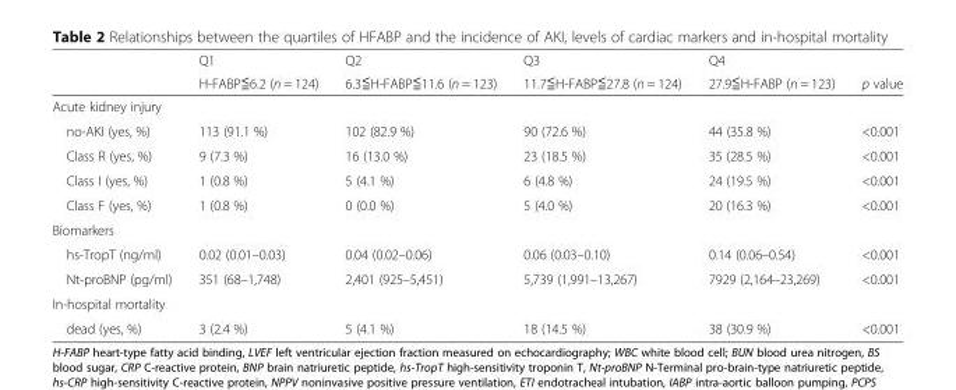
<table><thead><tr><td rowspan="2"></td><td rowspan="2">Q1 H-FABP≦6.2 (n = 124)</td><td rowspan="2">Q2 6.3≦H-FABP≦11.6 (n = 123)</td><td rowspan="2">Q3 11.7≦H-FABP≦27.8 (n = 124)</td><td rowspan="2">Q4 27.9≦H-FABP (n = 123)</td><td rowspan="2">p value</td></tr><tr></tr></thead><tbody><tr><td colspan="6">Acute kidney injury</td></tr><tr><td>no-AKI (yes, %)</td><td>113 (91.1 %)</td><td>102 (82.9 %)</td><td>90 (72.6 %)</td><td>44 (35.8 %)</td><td>&lt;0.001</td></tr><tr><td>Class R (yes, %)</td><td>9 (7.3 %)</td><td>16 (13.0 %)</td><td>23 (18.5 %)</td><td>35 (28.5 %)</td><td>&lt;0.001</td></tr><tr><td>Class I (yes, %)</td><td>1 (0.8 %)</td><td>5 (4.1 %)</td><td>6 (4.8 %)</td><td>24 (19.5 %)</td><td>&lt;0.001</td></tr><tr><td>Class F (yes, %)</td><td>1 (0.8 %)</td><td>0 (0.0 %)</td><td>5 (4.0 %)</td><td>20 (16.3 %)</td><td>&lt;0.001</td></tr><tr><td colspan="6">Biomarkers</td></tr><tr><td>hs-TropT (ng/ml)</td><td>0.02 (0.01–0.03)</td><td>0.04 (0.02–0.06)</td><td>0.06 (0.03–0.10)</td><td>0.14 (0.06–0.54)</td><td>&lt;0.001</td></tr><tr><td>Nt-proBNP (pg/ml)</td><td>351 (68–1,748)</td><td>2,401 (925–5,451)</td><td>5,739 (1,991–13,267)</td><td>7929 (2,164–23,269)</td><td>&lt;0.001</td></tr><tr><td colspan="6">In-hospital mortality</td></tr><tr><td>dead (yes, %)</td><td>3 (2.4 %)</td><td>5 (4.1 %)</td><td>18 (14.5 %)</td><td>38 (30.9 %)</td><td>&lt;0.001</td></tr></tbody></table>